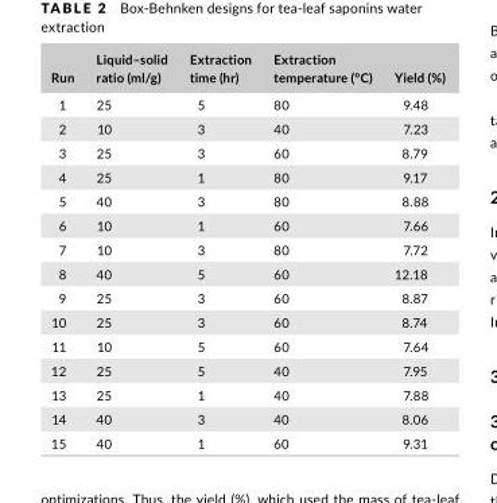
<table><thead><tr><td>Run</td><td>Liquid–solid ratio (ml/g)</td><td>Extraction time (hr)</td><td>Extraction temperature (°C)</td><td>Yield (%)</td></tr></thead><tbody><tr><td>1</td><td>25</td><td>5</td><td>80</td><td>9.48</td></tr><tr><td>2</td><td>10</td><td>3</td><td>40</td><td>7.23</td></tr><tr><td>3</td><td>25</td><td>3</td><td>60</td><td>8.79</td></tr><tr><td>4</td><td>25</td><td>1</td><td>80</td><td>9.17</td></tr><tr><td>5</td><td>40</td><td>3</td><td>80</td><td>8.88</td></tr><tr><td>6</td><td>10</td><td>1</td><td>60</td><td>7.66</td></tr><tr><td>7</td><td>10</td><td>3</td><td>80</td><td>7.72</td></tr><tr><td>8</td><td>40</td><td>5</td><td>60</td><td>12.18</td></tr><tr><td>9</td><td>25</td><td>3</td><td>60</td><td>8.87</td></tr><tr><td>10</td><td>25</td><td>3</td><td>60</td><td>8.74</td></tr><tr><td>11</td><td>10</td><td>5</td><td>60</td><td>7.64</td></tr><tr><td>12</td><td>25</td><td>5</td><td>40</td><td>7.95</td></tr><tr><td>13</td><td>25</td><td>1</td><td>40</td><td>7.88</td></tr><tr><td>14</td><td>40</td><td>3</td><td>40</td><td>8.06</td></tr><tr><td>15</td><td>40</td><td>1</td><td>60</td><td>9.31</td></tr></tbody></table>